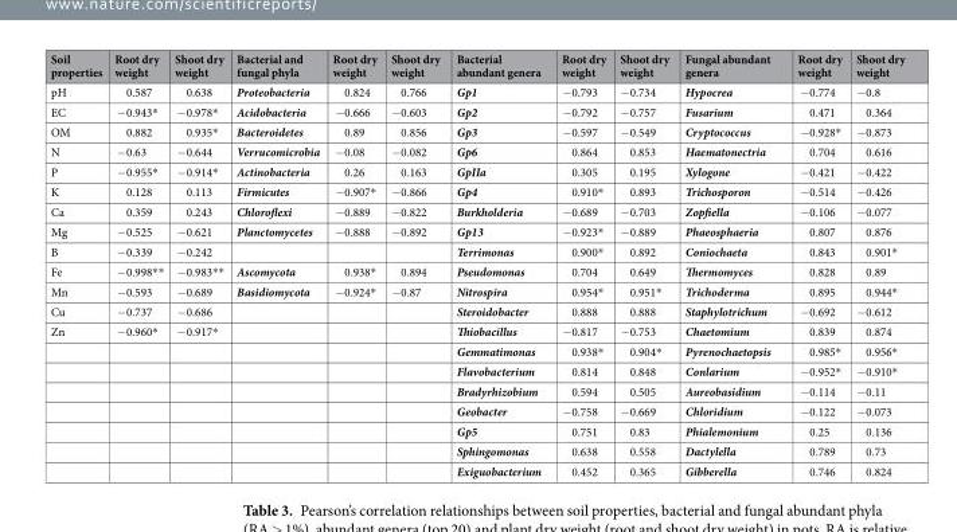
<table><thead><tr><td>Soil properties</td><td>Root dry weight</td><td>Shoot dry weight</td><td>Bacterial and fungal phyla</td><td>Root dry weight</td><td>Shoot dry weight</td><td>Bacterial abundant genera</td><td>Root dry weight</td><td>Shoot dry weight</td><td>Fungal abundant genera</td><td>Root dry weight</td><td>Shoot dry weight</td></tr></thead><tbody><tr><td>pH</td><td>0.587</td><td>0.638</td><td>Proteobacteria</td><td>0.824</td><td>0.766</td><td>Gp1</td><td>−0.793</td><td>−0.734</td><td>Hypocrea</td><td>−0.774</td><td>−0.8</td></tr><tr><td>EC</td><td>−0.943*</td><td>−0.978*</td><td>Acidobacteria</td><td>−0.666</td><td>−0.603</td><td>Gp2</td><td>−0.792</td><td>−0.757</td><td>Fusarium</td><td>0.471</td><td>0.364</td></tr><tr><td>OM</td><td>0.882</td><td>0.935*</td><td>Bacteroidetes</td><td>0.89</td><td>0.856</td><td>Gp3</td><td>−0.597</td><td>−0.549</td><td>Cryptococcus</td><td>−0.928*</td><td>−0.873</td></tr><tr><td>N</td><td>−0.63</td><td>−0.644</td><td>Verrucomicrobia</td><td>−0.08</td><td>−0.082</td><td>Gp6</td><td>0.864</td><td>0.853</td><td>Haematonectria</td><td>0.704</td><td>0.616</td></tr><tr><td>P</td><td>−0.955*</td><td>−0.914*</td><td>Actinobacteria</td><td>0.26</td><td>0.163</td><td>GpIIa</td><td>0.305</td><td>0.195</td><td>Xylogone</td><td>−0.421</td><td>−0.422</td></tr><tr><td>K</td><td>0.128</td><td>0.113</td><td>Firmicutes</td><td>−0.907*</td><td>−0.866</td><td>Gp4</td><td>0.910*</td><td>0.893</td><td>Trichosporon</td><td>−0.514</td><td>−0.426</td></tr><tr><td>Ca</td><td>0.359</td><td>0.243</td><td>Chloroflexi</td><td>−0.889</td><td>−0.822</td><td>Burkholderia</td><td>−0.689</td><td>−0.703</td><td>Zopfiella</td><td>−0.106</td><td>−0.077</td></tr><tr><td>Mg</td><td>−0.525</td><td>−0.621</td><td>Planctomycetes</td><td>−0.888</td><td>−0.892</td><td>Gp13</td><td>−0.923*</td><td>−0.889</td><td>Phaeosphaeria</td><td>0.807</td><td>0.876</td></tr><tr><td>B</td><td>−0.339</td><td>−0.242</td><td></td><td></td><td></td><td>Terrimonas</td><td>0.900*</td><td>0.892</td><td>Coniochaeta</td><td>0.843</td><td>0.901*</td></tr><tr><td>Fe</td><td>−0.998**</td><td>−0.983**</td><td>Ascomycota</td><td>0.938*</td><td>0.894</td><td>Pseudomonas</td><td>0.704</td><td>0.649</td><td>Thermomyces</td><td>0.828</td><td>0.89</td></tr><tr><td>Mn</td><td>−0.593</td><td>−0.689</td><td>Basidiomycota</td><td>−0.924*</td><td>−0.87</td><td>Nitrospira</td><td>0.954*</td><td>0.951*</td><td>Trichoderma</td><td>0.895</td><td>0.944*</td></tr><tr><td>Cu</td><td>−0.737</td><td>−0.686</td><td></td><td></td><td></td><td>Steroidobacter</td><td>0.888</td><td>0.888</td><td>Staphylotrichum</td><td>−0.692</td><td>−0.612</td></tr><tr><td rowspan="8">Zn</td><td>−0.960*</td><td>−0.917*</td><td></td><td></td><td></td><td>Thiobacillus</td><td>−0.817</td><td>−0.753</td><td>Chaetomium</td><td>0.839</td><td>0.874</td></tr><tr><td></td><td></td><td></td><td></td><td></td><td>Gemmatimonas</td><td>0.938*</td><td>0.904*</td><td>Pyrenochaetopsis</td><td>0.985*</td><td>0.956*</td></tr><tr><td></td><td></td><td></td><td></td><td></td><td>Flavobacterium</td><td>0.814</td><td>0.848</td><td>Conlarium</td><td>−0.952*</td><td>−0.910*</td></tr><tr><td></td><td></td><td></td><td></td><td></td><td>Bradyrhizobium</td><td>0.594</td><td>0.505</td><td>Aureobasidium</td><td>−0.114</td><td>−0.11</td></tr><tr><td></td><td></td><td></td><td></td><td></td><td>Geobacter</td><td>−0.758</td><td>−0.669</td><td>Chloridium</td><td>−0.122</td><td>−0.073</td></tr><tr><td></td><td></td><td></td><td></td><td></td><td>Gp5</td><td>0.751</td><td>0.83</td><td>Phialemonium</td><td>0.25</td><td>0.136</td></tr><tr><td></td><td></td><td></td><td></td><td></td><td>Sphingomonas</td><td>0.638</td><td>0.558</td><td>Dactylella</td><td>0.789</td><td>0.73</td></tr><tr><td></td><td></td><td></td><td></td><td></td><td>Exiguobacterium</td><td>0.452</td><td>0.365</td><td>Gibberella</td><td>0.746</td><td>0.824</td></tr></tbody></table>